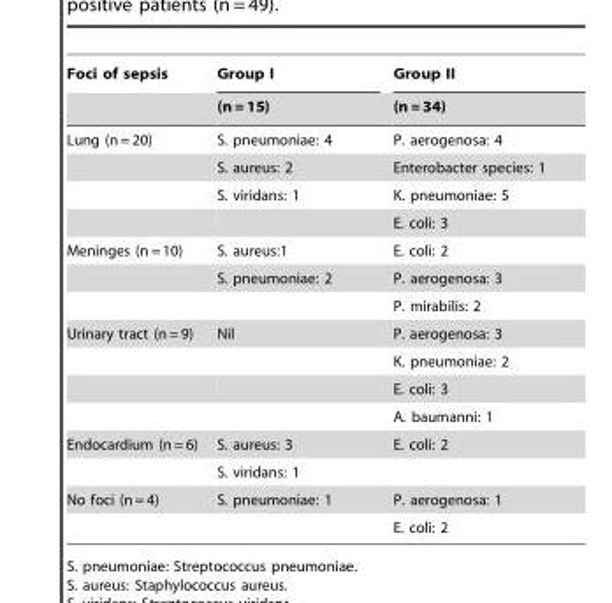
<table><thead><tr><td rowspan="2">Foci of sepsis</td><td rowspan="2">Group I (n = 15)</td><td rowspan="2">Group II (n = 34)</td></tr><tr></tr></thead><tbody><tr><td rowspan="4">Lung (n = 20)</td><td>S. pneumoniae: 4</td><td>P. aerogenosa: 4</td></tr><tr><td>S. aureus: 2</td><td>Enterobacter species: 1</td></tr><tr><td>S. viridans: 1</td><td>K. pneumoniae: 5</td></tr><tr><td></td><td>E. coli: 3</td></tr><tr><td rowspan="3">Meninges (n = 10)</td><td>S. aureus:1</td><td>E. coli: 2</td></tr><tr><td>S. pneumoniae: 2</td><td>P. aerogenosa: 3</td></tr><tr><td></td><td>P. mirabilis: 2</td></tr><tr><td rowspan="4">Urinary tract (n = 9)</td><td>Nil</td><td>P. aerogenosa: 3</td></tr><tr><td></td><td>K. pneumoniae: 2</td></tr><tr><td></td><td>E. coli: 3</td></tr><tr><td></td><td>A. baumanni: 1</td></tr><tr><td rowspan="2">Endocardium (n = 6)</td><td>S. aureus: 3</td><td>E. coli: 2</td></tr><tr><td>S. viridans: 1</td><td></td></tr><tr><td rowspan="2">No foci (n = 4)</td><td>S. pneumoniae: 1</td><td>P. aerogenosa: 1</td></tr><tr><td></td><td>E. coli: 2</td></tr></tbody></table>